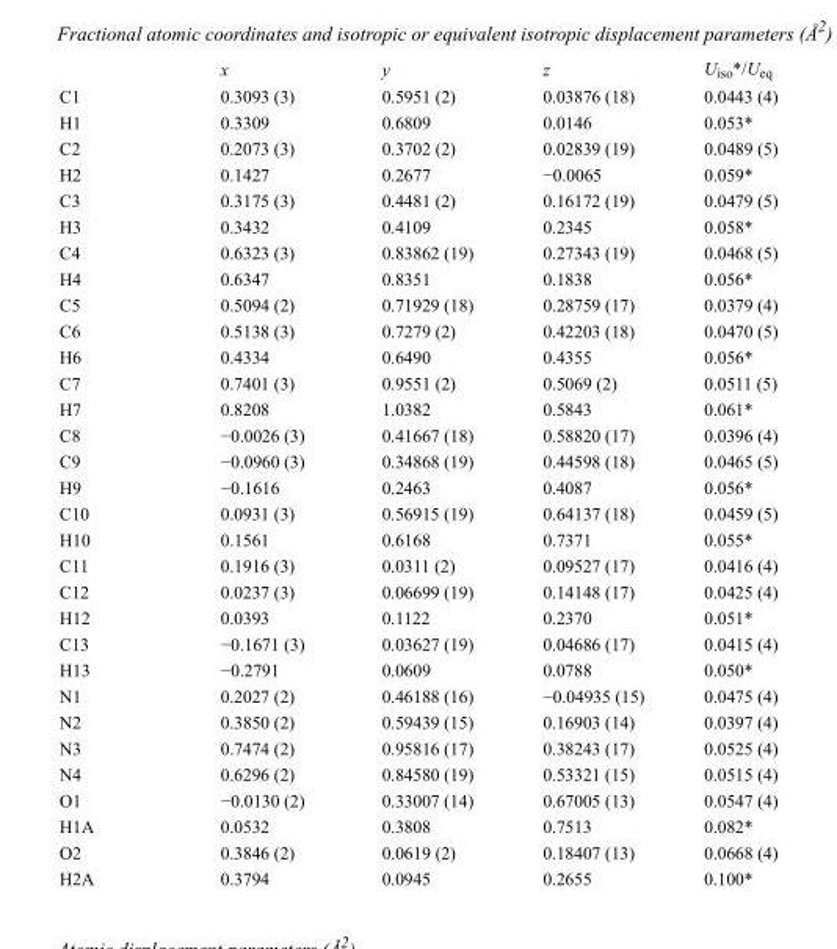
<table><thead><tr><td></td><td>x</td><td>y</td><td>z</td><td>U<sub>iso</sub>*/U<sub>eq</sub></td></tr></thead><tbody><tr><td>C1</td><td>0.3093 (3)</td><td>0.5951 (2)</td><td>0.03876 (18)</td><td>0.0443 (4)</td></tr><tr><td>H1</td><td>0.3309</td><td>0.6809</td><td>0.0146</td><td>0.053*</td></tr><tr><td>C2</td><td>0.2073 (3)</td><td>0.3702 (2)</td><td>0.02839 (19)</td><td>0.0489 (5)</td></tr><tr><td>H2</td><td>0.1427</td><td>0.2677</td><td>−0.0065</td><td>0.059*</td></tr><tr><td>C3</td><td>0.3175 (3)</td><td>0.4481 (2)</td><td>0.16172 (19)</td><td>0.0479 (5)</td></tr><tr><td>H3</td><td>0.3432</td><td>0.4109</td><td>0.2345</td><td>0.058*</td></tr><tr><td>C4</td><td>0.6323 (3)</td><td>0.83862 (19)</td><td>0.27343 (19)</td><td>0.0468 (5)</td></tr><tr><td>H4</td><td>0.6347</td><td>0.8351</td><td>0.1838</td><td>0.056*</td></tr><tr><td>C5</td><td>0.5094 (2)</td><td>0.71929 (18)</td><td>0.28759 (17)</td><td>0.0379 (4)</td></tr><tr><td>C6</td><td>0.5138 (3)</td><td>0.7279 (2)</td><td>0.42203 (18)</td><td>0.0470 (5)</td></tr><tr><td>H6</td><td>0.4334</td><td>0.6490</td><td>0.4355</td><td>0.056*</td></tr><tr><td>C7</td><td>0.7401 (3)</td><td>0.9551 (2)</td><td>0.5069 (2)</td><td>0.0511 (5)</td></tr><tr><td>H7</td><td>0.8208</td><td>1.0382</td><td>0.5843</td><td>0.061*</td></tr><tr><td>C8</td><td>−0.0026 (3)</td><td>0.41667 (18)</td><td>0.58820 (17)</td><td>0.0396 (4)</td></tr><tr><td>C9</td><td>−0.0960 (3)</td><td>0.34868 (19)</td><td>0.44598 (18)</td><td>0.0465 (5)</td></tr><tr><td>H9</td><td>−0.1616</td><td>0.2463</td><td>0.4087</td><td>0.056*</td></tr><tr><td>C10</td><td>0.0931 (3)</td><td>0.56915 (19)</td><td>0.64137 (18)</td><td>0.0459 (5)</td></tr><tr><td>H10</td><td>0.1561</td><td>0.6168</td><td>0.7371</td><td>0.055*</td></tr><tr><td>C11</td><td>0.1916 (3)</td><td>0.0311 (2)</td><td>0.09527 (17)</td><td>0.0416 (4)</td></tr><tr><td>C12</td><td>0.0237 (3)</td><td>0.06699 (19)</td><td>0.14148 (17)</td><td>0.0425 (4)</td></tr><tr><td>H12</td><td>0.0393</td><td>0.1122</td><td>0.2370</td><td>0.051*</td></tr><tr><td>C13</td><td>−0.1671 (3)</td><td>0.03627 (19)</td><td>0.04686 (17)</td><td>0.0415 (4)</td></tr><tr><td>H13</td><td>−0.2791</td><td>0.0609</td><td>0.0788</td><td>0.050*</td></tr><tr><td>N1</td><td>0.2027 (2)</td><td>0.46188 (16)</td><td>−0.04935 (15)</td><td>0.0475 (4)</td></tr><tr><td>N2</td><td>0.3850 (2)</td><td>0.59439 (15)</td><td>0.16903 (14)</td><td>0.0397 (4)</td></tr><tr><td>N3</td><td>0.7474 (2)</td><td>0.95816 (17)</td><td>0.38243 (17)</td><td>0.0525 (4)</td></tr><tr><td>N4</td><td>0.6296 (2)</td><td>0.84580 (19)</td><td>0.53321 (15)</td><td>0.0515 (4)</td></tr><tr><td>O1</td><td>−0.0130 (2)</td><td>0.33007 (14)</td><td>0.67005 (13)</td><td>0.0547 (4)</td></tr><tr><td>H1A</td><td>0.0532</td><td>0.3808</td><td>0.7513</td><td>0.082*</td></tr><tr><td>O2</td><td>0.3846 (2)</td><td>0.0619 (2)</td><td>0.18407 (13)</td><td>0.0668 (4)</td></tr><tr><td>H2A</td><td>0.3794</td><td>0.0945</td><td>0.2655</td><td>0.100*</td></tr></tbody></table>